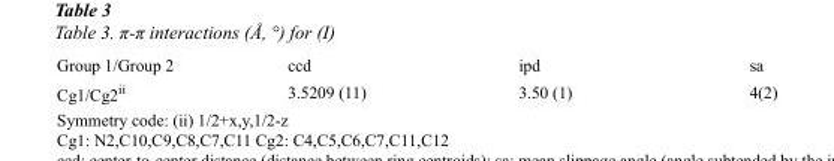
<table><tbody><tr><td>Group 1/Group 2</td><td>ccd</td><td>ipd</td><td>sa</td></tr><tr><td>Cg1/Cg2<sup>ii</sup></td><td>3.5209 (11)</td><td>3.50 (1)</td><td>4(2)</td></tr></tbody></table>